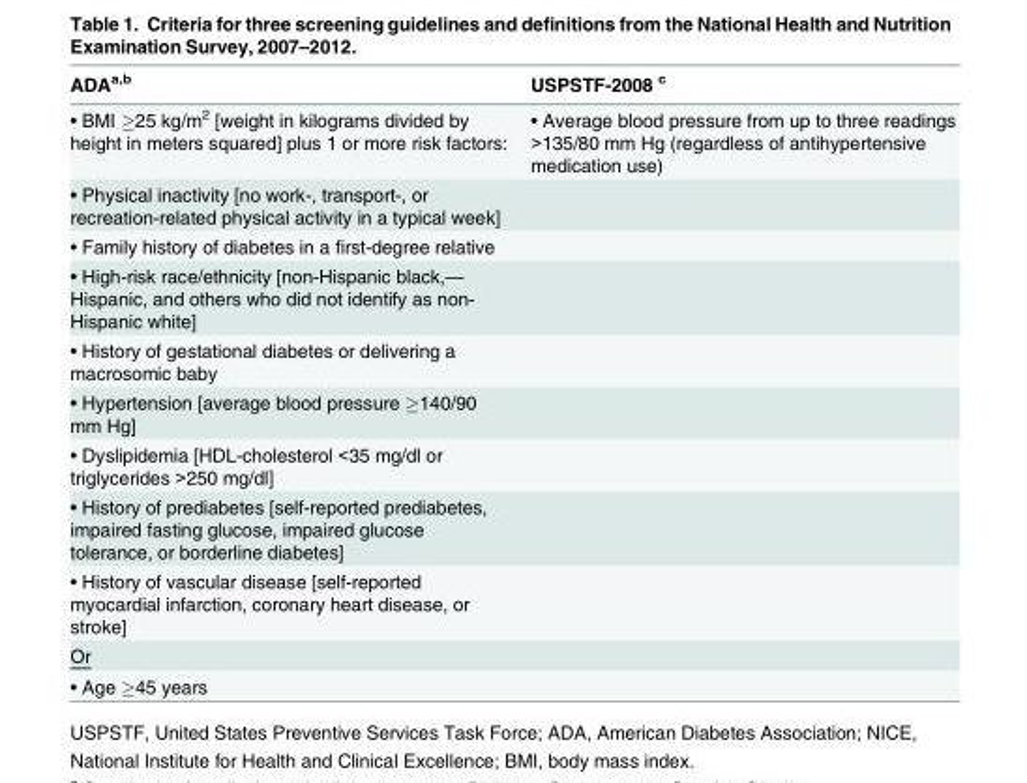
<table><thead><tr><td>ADA<sup>a,b</sup></td><td>USPSTF-2008 <sup>c</sup></td></tr></thead><tbody><tr><td>• BMI ≥25 kg/m<sup>2</sup> [weight in kilograms divided by height in meters squared] plus 1 or more risk factors:</td><td>• Average blood pressure from up to three readings &gt;135/80 mm Hg (regardless of antihypertensive medication use)</td></tr><tr><td colspan="2">• Physical inactivity [no work-, transport-, or recreation-related physical activity in a typical week]</td></tr><tr><td colspan="2">• Family history of diabetes in a first-degree relative</td></tr><tr><td colspan="2">• High-risk race/ethnicity [non-Hispanic black,— Hispanic, and others who did not identify as non- Hispanic white]</td></tr><tr><td colspan="2">• History of gestational diabetes or delivering a macrosomic baby</td></tr><tr><td colspan="2">• Hypertension [average blood pressure ≥140/90 mm Hg]</td></tr><tr><td colspan="2">• Dyslipidemia [HDL-cholesterol &lt;35 mg/dl or triglycerides &gt;250 mg/dl]</td></tr><tr><td colspan="2">• History of prediabetes [self-reported prediabetes, impaired fasting glucose, impaired glucose tolerance, or borderline diabetes]</td></tr><tr><td colspan="2">• History of vascular disease [self-reported myocardial infarction, coronary heart disease, or stroke]</td></tr><tr><td colspan="2">Or</td></tr><tr><td>• Age ≥45 years</td><td></td></tr></tbody></table>